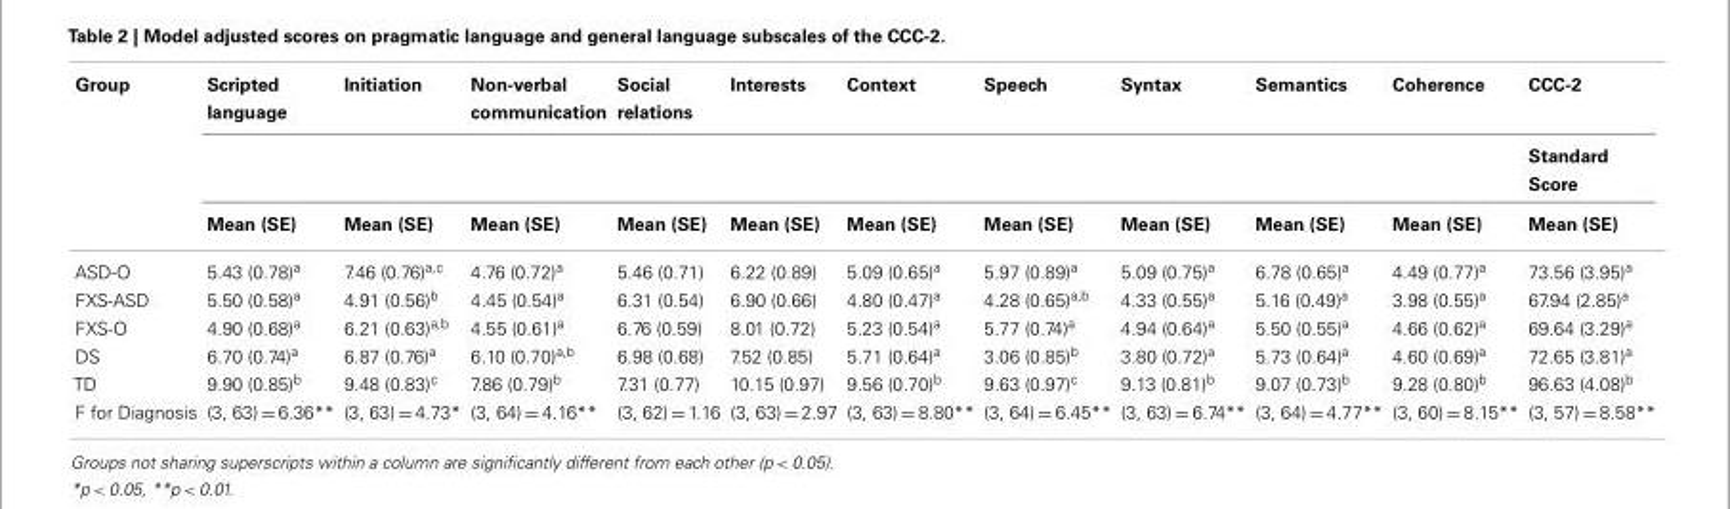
<table><thead><tr><td rowspan="3">Group</td><td rowspan="3">Scripted language Mean (SE)</td><td rowspan="3">Initiation Mean (SE)</td><td rowspan="3">Non-verbal communication Mean (SE)</td><td rowspan="3">Social relations Mean (SE)</td><td rowspan="3">Interests Mean (SE)</td><td rowspan="3">Context Mean (SE)</td><td rowspan="3">Speech Mean (SE)</td><td rowspan="3">Syntax Mean (SE)</td><td rowspan="3">Semantics Mean (SE)</td><td rowspan="3">Coherence Mean (SE)</td><td rowspan="3">CCC-2 Standard Score Mean (SE)</td></tr><tr></tr><tr></tr></thead><tbody><tr><td>ASD-O</td><td>5.43 (0.78)<sup>a</sup></td><td>7.46 (0.76)<sup>a,c</sup></td><td>4.76 (0.72)<sup>a</sup></td><td>5.46 (0.71)</td><td>6.22 (0.89)</td><td>5.09 (0.65)<sup>a</sup></td><td>5.97 (0.89)<sup>a</sup></td><td>5.09 (0.75)<sup>a</sup></td><td>6.78 (0.65)<sup>a</sup></td><td>4.49 (0.77)<sup>a</sup></td><td>73.56 (3.95)<sup>a</sup></td></tr><tr><td>FXS-ASD</td><td>5.50 (0.58)<sup>a</sup></td><td>4.91 (0.56)<sup>b</sup></td><td>4.45 (0.54)<sup>a</sup></td><td>6.31 (0.54)</td><td>6.90 (0.66)</td><td>4.80 (0.47)<sup>a</sup></td><td>4.28 (0.65)<sup>a,b</sup></td><td>4.33 (0.55)<sup>a</sup></td><td>5.16 (0.49)<sup>a</sup></td><td>3.98 (0.55)<sup>a</sup></td><td>67.94 (2.85)<sup>a</sup></td></tr><tr><td>FXS-O</td><td>4.90 (0.68)<sup>a</sup></td><td>6.21 (0.63)<sup>a,b</sup></td><td>4.55 (0.61)<sup>a</sup></td><td>6.76 (0.59)</td><td>8.01 (0.72)</td><td>5.23 (0.54)<sup>a</sup></td><td>5.77 (0.74)<sup>a</sup></td><td>4.94 (0.64)<sup>a</sup></td><td>5.50 (0.55)<sup>a</sup></td><td>4.66 (0.62)<sup>a</sup></td><td>69.64 (3.29)<sup>a</sup></td></tr><tr><td>DS</td><td>6.70 (0.74)<sup>a</sup></td><td>6.87 (0.76)<sup>a</sup></td><td>6.10 (0.70)<sup>a,b</sup></td><td>6.98 (0.68)</td><td>7.52 (0.85)</td><td>5.71 (0.64)<sup>a</sup></td><td>3.06 (0.85)<sup>b</sup></td><td>3.80 (0.72)<sup>a</sup></td><td>5.73 (0.64)<sup>a</sup></td><td>4.60 (0.69)<sup>a</sup></td><td>72.65 (3.81)<sup>a</sup></td></tr><tr><td>TD</td><td>9.90 (0.85)<sup>b</sup></td><td>9.48 (0.83)<sup>c</sup></td><td>7.86 (0.79)<sup>b</sup></td><td>7.31 (0.77)</td><td>10.15 (0.97)</td><td>9.56 (0.70)<sup>b</sup></td><td>9.63 (0.97)<sup>c</sup></td><td>9.13 (0.81)<sup>b</sup></td><td>9.07 (0.73)<sup>b</sup></td><td>9.28 (0.80)<sup>b</sup></td><td>96.63 (4.08)<sup>b</sup></td></tr><tr><td>F for Diagnosis</td><td>(3, 63) = 6.36**</td><td>(3, 63) = 4.73*</td><td>(3, 64) = 4.16**</td><td>(3, 62) = 1.16</td><td>(3, 63) = 2.97</td><td>(3, 63) = 8.80**</td><td>(3, 64) = 6.45**</td><td>(3, 63) = 6.74**</td><td>(3, 64) = 4.77**</td><td>(3, 60) = 8.15**</td><td>(3, 57) = 8.58**</td></tr></tbody></table>